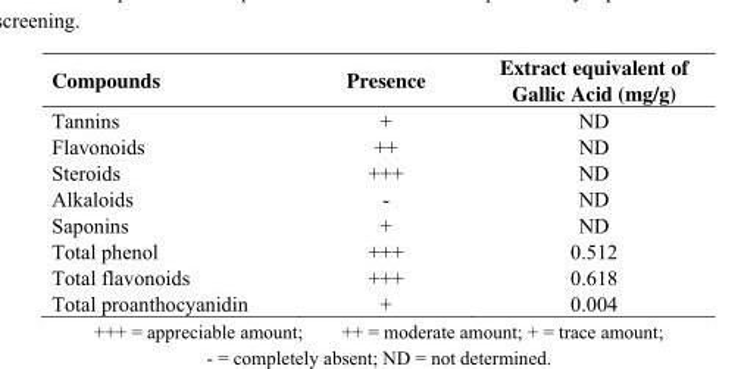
<table><thead><tr><td>Compounds</td><td>Presence</td><td>Extract equivalent of Gallic Acid (mg/g)</td></tr></thead><tbody><tr><td>Tannins</td><td>+</td><td>ND</td></tr><tr><td>Flavonoids</td><td>++</td><td>ND</td></tr><tr><td>Steroids</td><td>+++</td><td>ND</td></tr><tr><td>Alkaloids</td><td>-</td><td>ND</td></tr><tr><td>Saponins</td><td>+</td><td>ND</td></tr><tr><td>Total phenol</td><td>+++</td><td>0.512</td></tr><tr><td>Total flavonoids</td><td>+++</td><td>0.618</td></tr><tr><td>Total proanthocyanidin</td><td>+</td><td>0.004</td></tr></tbody></table>